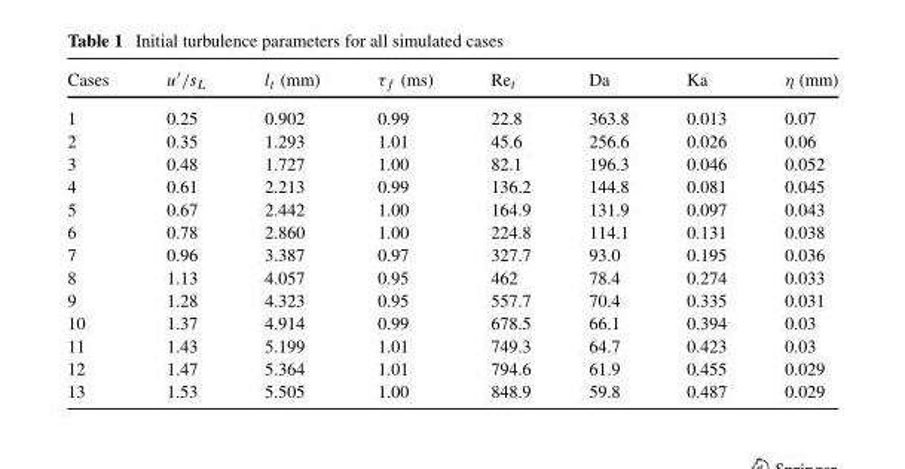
<table><thead><tr><td>Cases</td><td>u<sup>′</sup>/s<sub>L</sub></td><td>l<sub>t</sub> (mm)</td><td>τ<sub>f</sub> (ms)</td><td>Re<sub>t</sub></td><td>Da</td><td>Ka</td><td>η (mm)</td></tr></thead><tbody><tr><td>1</td><td>0.25</td><td>0.902</td><td>0.99</td><td>22.8</td><td>363.8</td><td>0.013</td><td>0.07</td></tr><tr><td>2</td><td>0.35</td><td>1.293</td><td>1.01</td><td>45.6</td><td>256.6</td><td>0.026</td><td>0.06</td></tr><tr><td>3</td><td>0.48</td><td>1.727</td><td>1.00</td><td>82.1</td><td>196.3</td><td>0.046</td><td>0.052</td></tr><tr><td>4</td><td>0.61</td><td>2.213</td><td>0.99</td><td>136.2</td><td>144.8</td><td>0.081</td><td>0.045</td></tr><tr><td>5</td><td>0.67</td><td>2.442</td><td>1.00</td><td>164.9</td><td>131.9</td><td>0.097</td><td>0.043</td></tr><tr><td>6</td><td>0.78</td><td>2.860</td><td>1.00</td><td>224.8</td><td>114.1</td><td>0.131</td><td>0.038</td></tr><tr><td>7</td><td>0.96</td><td>3.387</td><td>0.97</td><td>327.7</td><td>93.0</td><td>0.195</td><td>0.036</td></tr><tr><td>8</td><td>1.13</td><td>4.057</td><td>0.95</td><td>462</td><td>78.4</td><td>0.274</td><td>0.033</td></tr><tr><td>9</td><td>1.28</td><td>4.323</td><td>0.95</td><td>557.7</td><td>70.4</td><td>0.335</td><td>0.031</td></tr><tr><td>10</td><td>1.37</td><td>4.914</td><td>0.99</td><td>678.5</td><td>66.1</td><td>0.394</td><td>0.03</td></tr><tr><td>11</td><td>1.43</td><td>5.199</td><td>1.01</td><td>749.3</td><td>64.7</td><td>0.423</td><td>0.03</td></tr><tr><td>12</td><td>1.47</td><td>5.364</td><td>1.01</td><td>794.6</td><td>61.9</td><td>0.455</td><td>0.029</td></tr><tr><td>13</td><td>1.53</td><td>5.505</td><td>1.00</td><td>848.9</td><td>59.8</td><td>0.487</td><td>0.029</td></tr></tbody></table>